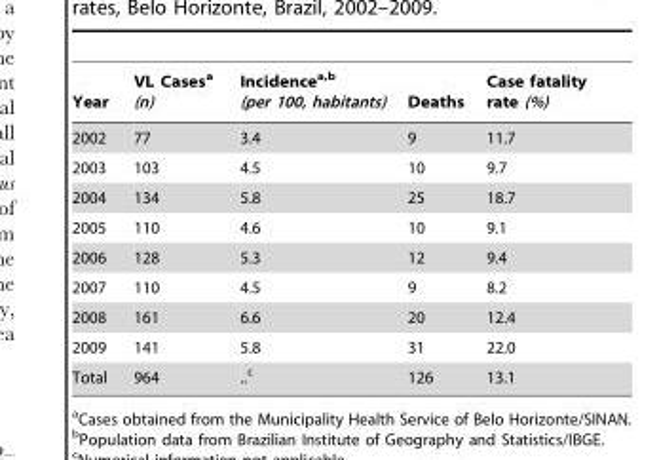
<table><thead><tr><td>Year</td><td>VL Cases<sup>a</sup> (n)</td><td>Incidence<sup>a,</sup>b (per 100, habitants)</td><td>Deaths</td><td>Case fatality rate (%)</td></tr></thead><tbody><tr><td>2002</td><td>77</td><td>3.4</td><td>9</td><td>11.7</td></tr><tr><td>2003</td><td>103</td><td>4.5</td><td>10</td><td>9.7</td></tr><tr><td>2004</td><td>134</td><td>5.8</td><td>25</td><td>18.7</td></tr><tr><td>2005</td><td>110</td><td>4.6</td><td>10</td><td>9.1</td></tr><tr><td>2006</td><td>128</td><td>5.3</td><td>12</td><td>9.4</td></tr><tr><td>2007</td><td>110</td><td>4.5</td><td>9</td><td>8.2</td></tr><tr><td>2008</td><td>161</td><td>6.6</td><td>20</td><td>12.4</td></tr><tr><td>2009</td><td>141</td><td>5.8</td><td>31</td><td>22.0</td></tr><tr><td>Total</td><td>964</td><td>..<sup>c</sup></td><td>126</td><td>13.1</td></tr></tbody></table>